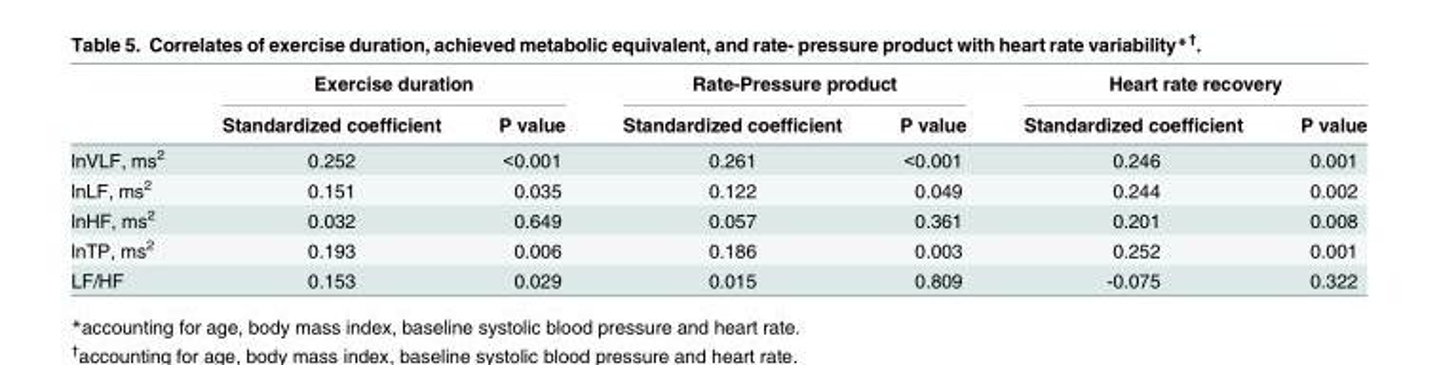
<table><thead><tr><td rowspan="2"></td><td colspan="2">Exercise duration</td><td colspan="2">Rate-Pressure product</td><td colspan="2">Heart rate recovery</td></tr><tr><td>Standardized coefficient</td><td>P value</td><td>Standardized coefficient</td><td>P value</td><td>Standardized coefficient</td><td>P value</td></tr></thead><tbody><tr><td>lnVLF, ms<sup>2</sup></td><td>0.252</td><td>&lt;0.001</td><td>0.261</td><td>&lt;0.001</td><td>0.246</td><td>0.001</td></tr><tr><td>lnLF, ms<sup>2</sup></td><td>0.151</td><td>0.035</td><td>0.122</td><td>0.049</td><td>0.244</td><td>0.002</td></tr><tr><td>lnHF, ms<sup>2</sup></td><td>0.032</td><td>0.649</td><td>0.057</td><td>0.361</td><td>0.201</td><td>0.008</td></tr><tr><td>lnTP, ms<sup>2</sup></td><td>0.193</td><td>0.006</td><td>0.186</td><td>0.003</td><td>0.252</td><td>0.001</td></tr><tr><td>LF/HF</td><td>0.153</td><td>0.029</td><td>0.015</td><td>0.809</td><td>-0.075</td><td>0.322</td></tr></tbody></table>